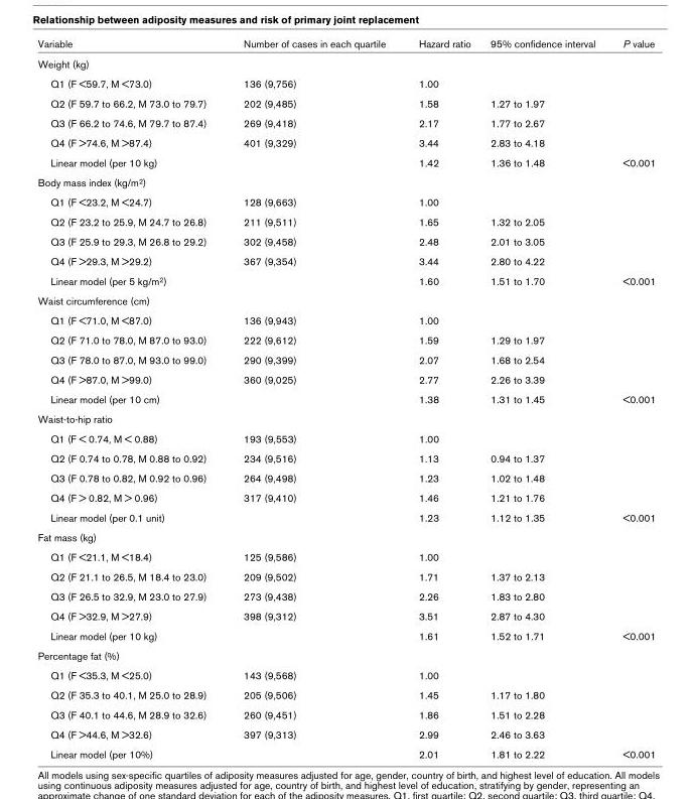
<table><thead><tr><td>Variable</td><td>Number of cases in each quartile</td><td>Hazard ratio</td><td>95% confidence interval</td><td>P value</td></tr></thead><tbody><tr><td colspan="5">Weight (kg)</td></tr><tr><td>Q1 (F &lt;59.7, M &lt;73.0)</td><td>136 (9,756)</td><td>1.00</td><td></td><td></td></tr><tr><td>Q2 (F 59.7 to 66.2, M 73.0 to 79.7)</td><td>202 (9,485)</td><td>1.58</td><td>1.27 to 1.97</td><td></td></tr><tr><td>Q3 (F 66.2 to 74.6, M 79.7 to 87.4)</td><td>269 (9,418)</td><td>2.17</td><td>1.77 to 2.67</td><td></td></tr><tr><td>Q4 (F &gt;74.6, M &gt;87.4)</td><td>401 (9,329)</td><td>3.44</td><td>2.83 to 4.18</td><td></td></tr><tr><td>Linear model (per 10 kg)</td><td></td><td>1.42</td><td>1.36 to 1.48</td><td>&lt;0.001</td></tr><tr><td colspan="5">Body mass index (kg/m<sup>2</sup>)</td></tr><tr><td>Q1 (F &lt;23.2, M &lt;24.7)</td><td>128 (9,663)</td><td>1.00</td><td></td><td></td></tr><tr><td>Q2 (F 23.2 to 25.9, M 24.7 to 26.8)</td><td>211 (9,511)</td><td>1.65</td><td>1.32 to 2.05</td><td></td></tr><tr><td>Q3 (F 25.9 to 29.3, M 26.8 to 29.2)</td><td>302 (9,458)</td><td>2.48</td><td>2.01 to 3.05</td><td></td></tr><tr><td>Q4 (F &gt;29.3, M &gt;29.2)</td><td>367 (9,354)</td><td>3.44</td><td>2.80 to 4.22</td><td></td></tr><tr><td>Linear model (per 5 kg/m<sup>2</sup>)</td><td></td><td>1.60</td><td>1.51 to 1.70</td><td>&lt;0.001</td></tr><tr><td colspan="5">Waist circumference (cm)</td></tr><tr><td>Q1 (F &lt;71.0, M &lt;87.0)</td><td>136 (9,943)</td><td>1.00</td><td></td><td></td></tr><tr><td>Q2 (F 71.0 to 78.0, M 87.0 to 93.0)</td><td>222 (9,612)</td><td>1.59</td><td>1.29 to 1.97</td><td></td></tr><tr><td>Q3 (F 78.0 to 87.0, M 93.0 to 99.0)</td><td>290 (9,399)</td><td>2.07</td><td>1.68 to 2.54</td><td></td></tr><tr><td>Q4 (F &gt;87.0, M &gt;99.0)</td><td>360 (9,025)</td><td>2.77</td><td>2.26 to 3.39</td><td></td></tr><tr><td>Linear model (per 10 cm)</td><td></td><td>1.38</td><td>1.31 to 1.45</td><td>&lt;0.001</td></tr><tr><td colspan="5">Waist-to-hip ratio</td></tr><tr><td>Q1 (F &lt; 0.74, M &lt; 0.88)</td><td>193 (9,553)</td><td>1.00</td><td></td><td></td></tr><tr><td>Q2 (F 0.74 to 0.78, M 0.88 to 0.92)</td><td>234 (9,516)</td><td>1.13</td><td>0.94 to 1.37</td><td></td></tr><tr><td>Q3 (F 0.78 to 0.82, M 0.92 to 0.96)</td><td>264 (9,498)</td><td>1.23</td><td>1.02 to 1.48</td><td></td></tr><tr><td>Q4 (F &gt; 0.82, M &gt; 0.96)</td><td>317 (9,410)</td><td>1.46</td><td>1.21 to 1.76</td><td></td></tr><tr><td>Linear model (per 0.1 unit)</td><td></td><td>1.23</td><td>1.12 to 1.35</td><td>&lt;0.001</td></tr><tr><td colspan="5">Fat mass (kg)</td></tr><tr><td>Q1 (F &lt;21.1, M &lt;18.4)</td><td>125 (9,586)</td><td>1.00</td><td></td><td></td></tr><tr><td>Q2 (F 21.1 to 26.5, M 18.4 to 23.0)</td><td>209 (9,502)</td><td>1.71</td><td>1.37 to 2.13</td><td></td></tr><tr><td>Q3 (F 26.5 to 32.9, M 23.0 to 27.9)</td><td>273 (9,438)</td><td>2.26</td><td>1.83 to 2.80</td><td></td></tr><tr><td>Q4 (F &gt;32.9, M &gt;27.9)</td><td>398 (9,312)</td><td>3.51</td><td>2.87 to 4.30</td><td></td></tr><tr><td>Linear model (per 10 kg)</td><td></td><td>1.61</td><td>1.52 to 1.71</td><td>&lt;0.001</td></tr><tr><td colspan="5">Percentage fat (%)</td></tr><tr><td>Q1 (F &lt;35.3, M &lt;25.0)</td><td>143 (9,568)</td><td>1.00</td><td></td><td></td></tr><tr><td>Q2 (F 35.3 to 40.1, M 25.0 to 28.9)</td><td>205 (9,506)</td><td>1.45</td><td>1.17 to 1.80</td><td></td></tr><tr><td>Q3 (F 40.1 to 44.6, M 28.9 to 32.6)</td><td>260 (9,451)</td><td>1.86</td><td>1.51 to 2.28</td><td></td></tr><tr><td>Q4 (F &gt;44.6, M &gt;32.6)</td><td>397 (9,313)</td><td>2.99</td><td>2.46 to 3.63</td><td></td></tr><tr><td>Linear model (per 10%)</td><td></td><td>2.01</td><td>1.81 to 2.22</td><td>&lt;0.001</td></tr></tbody></table>